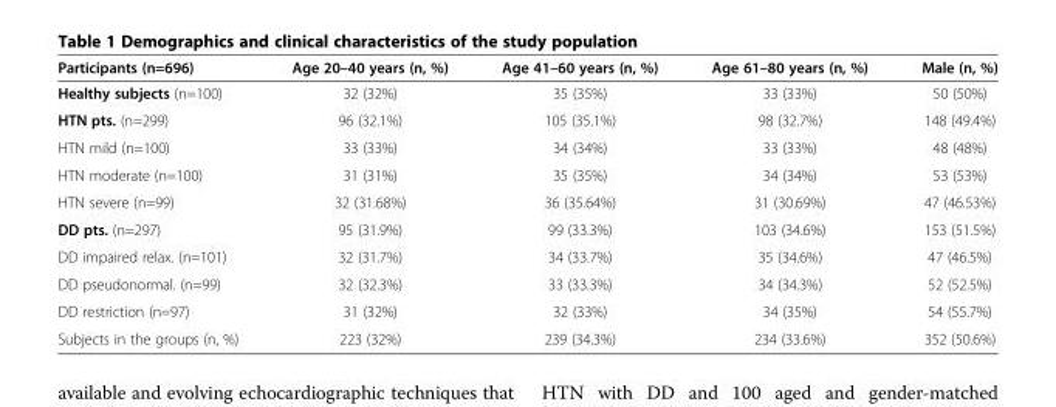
<table><thead><tr><td>Participants (n=696)</td><td>Age 20–40 years (n, %)</td><td>Age 41–60 years (n, %)</td><td>Age 61–80 years (n, %)</td><td>Male (n, %)</td></tr></thead><tbody><tr><td>Healthy subjects (n=100)</td><td>32 (32%)</td><td>35 (35%)</td><td>33 (33%)</td><td>50 (50%)</td></tr><tr><td>HTN pts. (n=299)</td><td>96 (32.1%)</td><td>105 (35.1%)</td><td>98 (32.7%)</td><td>148 (49.4%)</td></tr><tr><td>HTN mild (n=100)</td><td>33 (33%)</td><td>34 (34%)</td><td>33 (33%)</td><td>48 (48%)</td></tr><tr><td>HTN moderate (n=100)</td><td>31 (31%)</td><td>35 (35%)</td><td>34 (34%)</td><td>53 (53%)</td></tr><tr><td>HTN severe (n=99)</td><td>32 (31.68%)</td><td>36 (35.64%)</td><td>31 (30.69%)</td><td>47 (46.53%)</td></tr><tr><td>DD pts. (n=297)</td><td>95 (31.9%)</td><td>99 (33.3%)</td><td>103 (34.6%)</td><td>153 (51.5%)</td></tr><tr><td>DD impaired relax. (n=101)</td><td>32 (31.7%)</td><td>34 (33.7%)</td><td>35 (34.6%)</td><td>47 (46.5%)</td></tr><tr><td>DD pseudonormal. (n=99)</td><td>32 (32.3%)</td><td>33 (33.3%)</td><td>34 (34.3%)</td><td>52 (52.5%)</td></tr><tr><td>DD restriction (n=97)</td><td>31 (32%)</td><td>32 (33%)</td><td>34 (35%)</td><td>54 (55.7%)</td></tr><tr><td>Subjects in the groups (n, %)</td><td>223 (32%)</td><td>239 (34.3%)</td><td>234 (33.6%)</td><td>352 (50.6%)</td></tr></tbody></table>